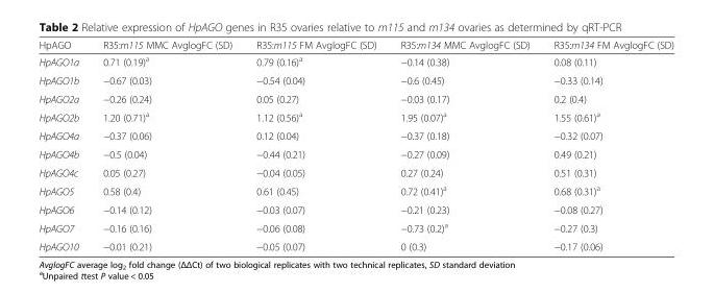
<table><thead><tr><td>HpAGO</td><td>R35:m115 MMC AvglogFC (SD)</td><td>R35:m115 FM AvglogFC (SD)</td><td>R35:m134 MMC AvglogFC (SD)</td><td>R35:m134 FM AvglogFC (SD)</td></tr></thead><tbody><tr><td>HpAGO1a</td><td>0.71 (0.19)<sup>a</sup></td><td>0.79 (0.16)<sup>a</sup></td><td>−0.14 (0.38)</td><td>0.08 (0.11)</td></tr><tr><td>HpAGO1b</td><td>−0.67 (0.03)</td><td>−0.54 (0.04)</td><td>−0.6 (0.45)</td><td>−0.33 (0.14)</td></tr><tr><td>HpAGO2a</td><td>−0.26 (0.24)</td><td>0.05 (0.27)</td><td>−0.03 (0.17)</td><td>0.2 (0.4)</td></tr><tr><td>HpAGO2b</td><td>1.20 (0.71)<sup>a</sup></td><td>1.12 (0.56)<sup>a</sup></td><td>1.95 (0.07)<sup>a</sup></td><td>1.55 (0.61)<sup>a</sup></td></tr><tr><td>HpAGO4a</td><td>−0.37 (0.06)</td><td>0.12 (0.04)</td><td>−0.37 (0.18)</td><td>−0.32 (0.07)</td></tr><tr><td>HpAGO4b</td><td>−0.5 (0.04)</td><td>−0.44 (0.21)</td><td>−0.27 (0.09)</td><td>0.49 (0.21)</td></tr><tr><td>HpAGO4c</td><td>0.05 (0.27)</td><td>−0.04 (0.05)</td><td>0.27 (0.24)</td><td>0.51 (0.31)</td></tr><tr><td>HpAGO5</td><td>0.58 (0.4)</td><td>0.61 (0.45)</td><td>0.72 (0.41)<sup>a</sup></td><td>0.68 (0.31)<sup>a</sup></td></tr><tr><td>HpAGO6</td><td>−0.14 (0.12)</td><td>−0.03 (0.07)</td><td>−0.21 (0.23)</td><td>−0.08 (0.27)</td></tr><tr><td>HpAGO7</td><td>−0.16 (0.16)</td><td>−0.06 (0.08)</td><td>−0.73 (0.2)<sup>a</sup></td><td>−0.27 (0.3)</td></tr><tr><td>HpAGO10</td><td>−0.01 (0.21)</td><td>−0.05 (0.07)</td><td>0 (0.3)</td><td>−0.17 (0.06)</td></tr></tbody></table>